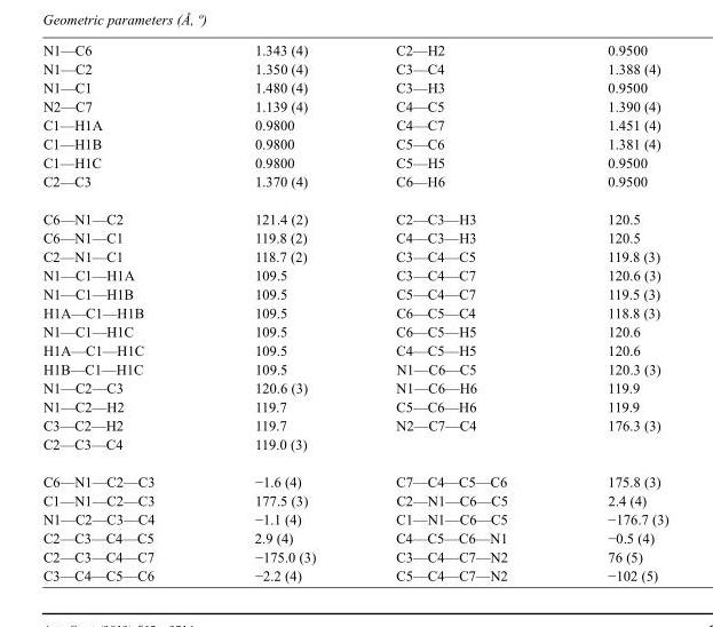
<table><tbody><tr><td>N1—C6</td><td>1.343 (4)</td><td>C2—H2</td><td>0.9500</td></tr><tr><td>N1—C2</td><td>1.350 (4)</td><td>C3—C4</td><td>1.388 (4)</td></tr><tr><td>N1—C1</td><td>1.480 (4)</td><td>C3—H3</td><td>0.9500</td></tr><tr><td>N2—C7</td><td>1.139 (4)</td><td>C4—C5</td><td>1.390 (4)</td></tr><tr><td>C1—H1A</td><td>0.9800</td><td>C4—C7</td><td>1.451 (4)</td></tr><tr><td>C1—H1B</td><td>0.9800</td><td>C5—C6</td><td>1.381 (4)</td></tr><tr><td>C1—H1C</td><td>0.9800</td><td>C5—H5</td><td>0.9500</td></tr><tr><td>C2—C3</td><td>1.370 (4)</td><td>C6—H6</td><td>0.9500</td></tr><tr><td>C6—N1—C2</td><td>121.4 (2)</td><td>C2—C3—H3</td><td>120.5</td></tr><tr><td>C6—N1—C1</td><td>119.8 (2)</td><td>C4—C3—H3</td><td>120.5</td></tr><tr><td>C2—N1—C1</td><td>118.7 (2)</td><td>C3—C4—C5</td><td>119.8 (3)</td></tr><tr><td>N1—C1—H1A</td><td>109.5</td><td>C3—C4—C7</td><td>120.6 (3)</td></tr><tr><td>N1—C1—H1B</td><td>109.5</td><td>C5—C4—C7</td><td>119.5 (3)</td></tr><tr><td>H1A—C1—H1B</td><td>109.5</td><td>C6—C5—C4</td><td>118.8 (3)</td></tr><tr><td>N1—C1—H1C</td><td>109.5</td><td>C6—C5—H5</td><td>120.6</td></tr><tr><td>H1A—C1—H1C</td><td>109.5</td><td>C4—C5—H5</td><td>120.6</td></tr><tr><td>H1B—C1—H1C</td><td>109.5</td><td>N1—C6—C5</td><td>120.3 (3)</td></tr><tr><td>N1—C2—C3</td><td>120.6 (3)</td><td>N1—C6—H6</td><td>119.9</td></tr><tr><td>N1—C2—H2</td><td>119.7</td><td>C5—C6—H6</td><td>119.9</td></tr><tr><td>C3—C2—H2</td><td>119.7</td><td>N2—C7—C4</td><td>176.3 (3)</td></tr><tr><td>C2—C3—C4</td><td>119.0 (3)</td><td></td><td></td></tr><tr><td>C6—N1—C2—C3</td><td>−1.6 (4)</td><td>C7—C4—C5—C6</td><td>175.8 (3)</td></tr><tr><td>C1—N1—C2—C3</td><td>177.5 (3)</td><td>C2—N1—C6—C5</td><td>2.4 (4)</td></tr><tr><td>N1—C2—C3—C4</td><td>−1.1 (4)</td><td>C1—N1—C6—C5</td><td>−176.7 (3)</td></tr><tr><td>C2—C3—C4—C5</td><td>2.9 (4)</td><td>C4—C5—C6—N1</td><td>−0.5 (4)</td></tr><tr><td>C2—C3—C4—C7</td><td>−175.0 (3)</td><td>C3—C4—C7—N2</td><td>76 (5)</td></tr><tr><td>C3—C4—C5—C6</td><td>−2.2 (4)</td><td>C5—C4—C7—N2</td><td>−102 (5)</td></tr></tbody></table>